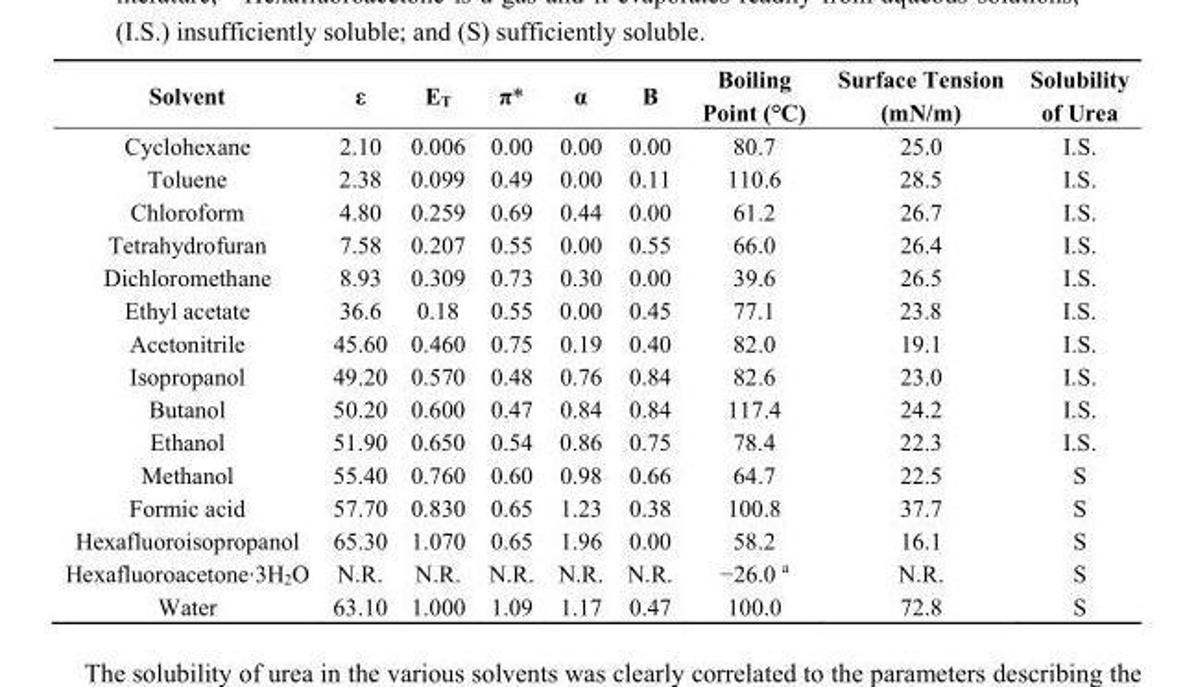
<table><thead><tr><td>Solvent</td><td>ε</td><td>E<sub>T</sub></td><td>π*</td><td>α</td><td>Β</td><td>Boiling Point (°C)</td><td>Surface Tension (mN/m)</td><td>Solubility of Urea</td></tr></thead><tbody><tr><td>Cyclohexane</td><td>2.10</td><td>0.006</td><td>0.00</td><td>0.00</td><td>0.00</td><td>80.7</td><td>25.0</td><td>I.S.</td></tr><tr><td>Toluene</td><td>2.38</td><td>0.099</td><td>0.49</td><td>0.00</td><td>0.11</td><td>110.6</td><td>28.5</td><td>I.S.</td></tr><tr><td>Chloroform</td><td>4.80</td><td>0.259</td><td>0.69</td><td>0.44</td><td>0.00</td><td>61.2</td><td>26.7</td><td>I.S.</td></tr><tr><td>Tetrahydrofuran</td><td>7.58</td><td>0.207</td><td>0.55</td><td>0.00</td><td>0.55</td><td>66.0</td><td>26.4</td><td>I.S.</td></tr><tr><td>Dichloromethane</td><td>8.93</td><td>0.309</td><td>0.73</td><td>0.30</td><td>0.00</td><td>39.6</td><td>26.5</td><td>I.S.</td></tr><tr><td>Ethyl acetate</td><td>36.6</td><td>0.18</td><td>0.55</td><td>0.00</td><td>0.45</td><td>77.1</td><td>23.8</td><td>I.S.</td></tr><tr><td>Acetonitrile</td><td>45.60</td><td>0.460</td><td>0.75</td><td>0.19</td><td>0.40</td><td>82.0</td><td>19.1</td><td>I.S.</td></tr><tr><td>Isopropanol</td><td>49.20</td><td>0.570</td><td>0.48</td><td>0.76</td><td>0.84</td><td>82.6</td><td>23.0</td><td>I.S.</td></tr><tr><td>Butanol</td><td>50.20</td><td>0.600</td><td>0.47</td><td>0.84</td><td>0.84</td><td>117.4</td><td>24.2</td><td>I.S.</td></tr><tr><td>Ethanol</td><td>51.90</td><td>0.650</td><td>0.54</td><td>0.86</td><td>0.75</td><td>78.4</td><td>22.3</td><td>I.S.</td></tr><tr><td>Methanol</td><td>55.40</td><td>0.760</td><td>0.60</td><td>0.98</td><td>0.66</td><td>64.7</td><td>22.5</td><td>S</td></tr><tr><td>Formic acid</td><td>57.70</td><td>0.830</td><td>0.65</td><td>1.23</td><td>0.38</td><td>100.8</td><td>37.7</td><td>S</td></tr><tr><td>Hexafluoroisopropanol</td><td>65.30</td><td>1.070</td><td>0.65</td><td>1.96</td><td>0.00</td><td>58.2</td><td>16.1</td><td>S</td></tr><tr><td>Hexafluoroacetone·3H2O</td><td>N.R.</td><td>N.R.</td><td>N.R.</td><td>N.R.</td><td>N.R.</td><td>−26.0 <sup>a</sup></td><td>N.R.</td><td>S</td></tr><tr><td>Water</td><td>63.10</td><td>1.000</td><td>1.09</td><td>1.17</td><td>0.47</td><td>100.0</td><td>72.8</td><td>S</td></tr></tbody></table>